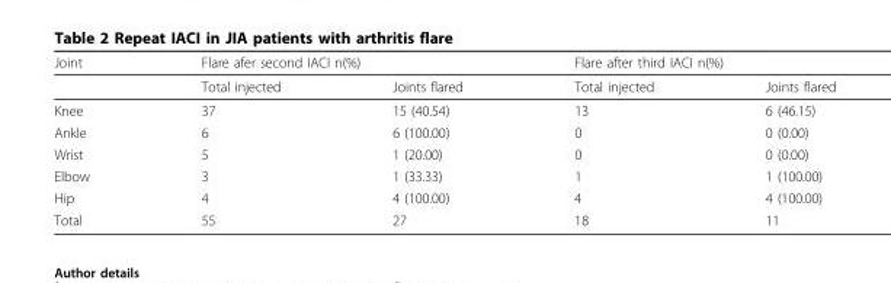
<table><thead><tr><td rowspan="2">Joint</td><td colspan="2">Flare afer second IACI n(%)</td><td colspan="2">Flare after third IACI n(%)</td></tr><tr><td>Total injected</td><td>Joints flared</td><td>Total injected</td><td>Joints flared</td></tr></thead><tbody><tr><td>Knee</td><td>37</td><td>15 (40.54)</td><td>13</td><td>6 (46.15)</td></tr><tr><td>Ankle</td><td>6</td><td>6 (100.00)</td><td>0</td><td>0 (0.00)</td></tr><tr><td>Wrist</td><td>5</td><td>1 (20.00)</td><td>0</td><td>0 (0.00)</td></tr><tr><td>Elbow</td><td>3</td><td>1 (33.33)</td><td>1</td><td>1 (100.00)</td></tr><tr><td>Hip</td><td>4</td><td>4 (100.00)</td><td>4</td><td>4 (100.00)</td></tr><tr><td>Total</td><td>55</td><td>27</td><td>18</td><td>11</td></tr></tbody></table>